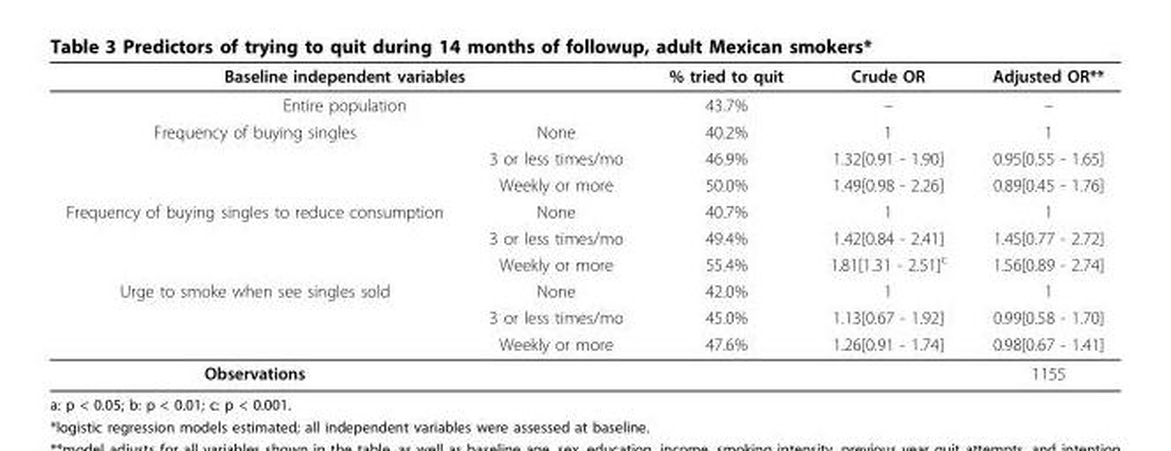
<table><thead><tr><td rowspan="2" colspan="2">Baseline independent variables Entire population</td><td rowspan="3">% tried to quit 43.7% 40.2%</td><td rowspan="3">Crude OR – 1</td><td rowspan="3">Adjusted OR** – 1</td></tr><tr></tr><tr><td>Frequency of buying singles</td><td>None</td></tr></thead><tbody><tr><td></td><td>3 or less times/mo</td><td>46.9%</td><td>1.32[0.91 - 1.90]</td><td>0.95[0.55 - 1.65]</td></tr><tr><td></td><td>Weekly or more</td><td>50.0%</td><td>1.49[0.98 - 2.26]</td><td>0.89[0.45 - 1.76]</td></tr><tr><td rowspan="3">Frequency of buying singles to reduce consumption</td><td>None</td><td>40.7%</td><td>1</td><td>1</td></tr><tr><td>3 or less times/mo</td><td>49.4%</td><td>1.42[0.84 - 2.41]</td><td>1.45[0.77 - 2.72]</td></tr><tr><td>Weekly or more</td><td>55.4%</td><td>1.81[1.31 - 2.51]<sup>c</sup></td><td>1.56[0.89 - 2.74]</td></tr><tr><td rowspan="3">Urge to smoke when see singles sold</td><td>None</td><td>42.0%</td><td>1</td><td>1</td></tr><tr><td>3 or less times/mo</td><td>45.0%</td><td>1.13[0.67 - 1.92]</td><td>0.99[0.58 - 1.70]</td></tr><tr><td>Weekly or more</td><td>47.6%</td><td>1.26[0.91 - 1.74]</td><td>0.98[0.67 - 1.41]</td></tr><tr><td>Observations</td><td></td><td></td><td></td><td>1155</td></tr></tbody></table>